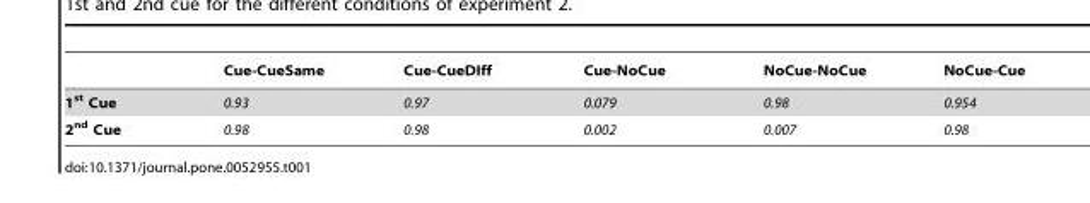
<table><thead><tr><td></td><td>Cue-CueSame</td><td>Cue-CueDIff</td><td>Cue-NoCue</td><td>NoCue-NoCue</td><td>NoCue-Cue</td></tr></thead><tbody><tr><td>1<sup>st</sup> Cue</td><td>0.93</td><td>0.97</td><td>0.079</td><td>0.98</td><td>0.954</td></tr><tr><td>2<sup>nd</sup> Cue</td><td>0.98</td><td>0.98</td><td>0.002</td><td>0.007</td><td>0.98</td></tr></tbody></table>